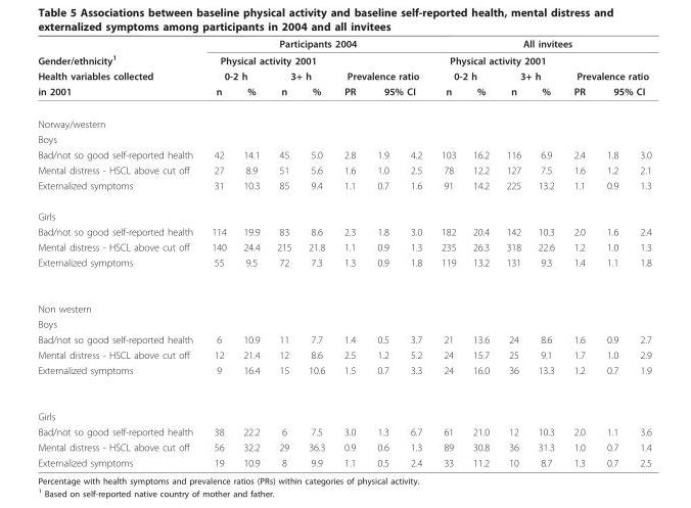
<table><thead><tr><td rowspan="4">Gender/ethnicity<sup>1</sup> Health variables collected in 2001</td><td colspan="7">Participants 2004</td><td colspan="7">All invitees</td></tr><tr><td colspan="4">Physical activity 2001</td><td></td><td></td><td></td><td colspan="4">Physical activity 2001</td><td></td><td></td><td></td></tr><tr><td colspan="2">0-2 h</td><td colspan="2">3+ h</td><td colspan="3">Prevalence ratio</td><td colspan="2">0-2 h</td><td colspan="2">3+ h</td><td colspan="3">Prevalence ratio</td></tr><tr><td>n</td><td>%</td><td>n</td><td>%</td><td>PR</td><td colspan="2">95% CI</td><td>n</td><td>%</td><td>n</td><td>%</td><td>PR</td><td colspan="2">95% CI</td></tr></thead><tbody><tr><td colspan="15">Norway/western</td></tr><tr><td colspan="15">Boys</td></tr><tr><td>Bad/not so good self-reported health</td><td>42</td><td>14.1</td><td>45</td><td>5.0</td><td>2.8</td><td>1.9</td><td>4.2</td><td>103</td><td>16.2</td><td>116</td><td>6.9</td><td>2.4</td><td>1.8</td><td>3.0</td></tr><tr><td>Mental distress - HSCL above cut off</td><td>27</td><td>8.9</td><td>51</td><td>5.6</td><td>1.6</td><td>1.0</td><td>2.5</td><td>78</td><td>12.2</td><td>127</td><td>7.5</td><td>1.6</td><td>1.2</td><td>2.1</td></tr><tr><td>Externalized symptoms</td><td>31</td><td>10.3</td><td>85</td><td>9.4</td><td>1.1</td><td>0.7</td><td>1.6</td><td>91</td><td>14.2</td><td>225</td><td>13.2</td><td>1.1</td><td>0.9</td><td>1.3</td></tr><tr><td colspan="15">Girls</td></tr><tr><td>Bad/not so good self-reported health</td><td>114</td><td>19.9</td><td>83</td><td>8.6</td><td>2.3</td><td>1.8</td><td>3.0</td><td>182</td><td>20.4</td><td>142</td><td>10.3</td><td>2.0</td><td>1.6</td><td>2.4</td></tr><tr><td>Mental distress - HSCL above cut off</td><td>140</td><td>24.4</td><td>215</td><td>21.8</td><td>1.1</td><td>0.9</td><td>1.3</td><td>235</td><td>26.3</td><td>318</td><td>22.6</td><td>1.2</td><td>1.0</td><td>1.3</td></tr><tr><td>Externalized symptoms</td><td>55</td><td>9.5</td><td>72</td><td>7.3</td><td>1.3</td><td>0.9</td><td>1.8</td><td>119</td><td>13.2</td><td>131</td><td>9.3</td><td>1.4</td><td>1.1</td><td>1.8</td></tr><tr><td colspan="15">Non western</td></tr><tr><td colspan="15">Boys</td></tr><tr><td>Bad/not so good self-reported health</td><td>6</td><td>10.9</td><td>11</td><td>7.7</td><td>1.4</td><td>0.5</td><td>3.7</td><td>21</td><td>13.6</td><td>24</td><td>8.6</td><td>1.6</td><td>0.9</td><td>2.7</td></tr><tr><td>Mental distress - HSCL above cut off</td><td>12</td><td>21.4</td><td>12</td><td>8.6</td><td>2.5</td><td>1.2</td><td>5.2</td><td>24</td><td>15.7</td><td>25</td><td>9.1</td><td>1.7</td><td>1.0</td><td>2.9</td></tr><tr><td>Externalized symptoms</td><td>9</td><td>16.4</td><td>15</td><td>10.6</td><td>1.5</td><td>0.7</td><td>3.3</td><td>24</td><td>16.0</td><td>36</td><td>13.3</td><td>1.2</td><td>0.7</td><td>1.9</td></tr><tr><td colspan="15">Girls</td></tr><tr><td>Bad/not so good self-reported health</td><td>38</td><td>22.2</td><td>6</td><td>7.5</td><td>3.0</td><td>1.3</td><td>6.7</td><td>61</td><td>21.0</td><td>12</td><td>10.3</td><td>2.0</td><td>1.1</td><td>3.6</td></tr><tr><td>Mental distress - HSCL above cut off</td><td>56</td><td>32.2</td><td>29</td><td>36.3</td><td>0.9</td><td>0.6</td><td>1.3</td><td>89</td><td>30.8</td><td>36</td><td>31.3</td><td>1.0</td><td>0.7</td><td>1.4</td></tr><tr><td>Externalized symptoms</td><td>19</td><td>10.9</td><td>8</td><td>9.9</td><td>1.1</td><td>0.5</td><td>2.4</td><td>33</td><td>11.2</td><td>10</td><td>8.7</td><td>1.3</td><td>0.7</td><td>2.5</td></tr></tbody></table>